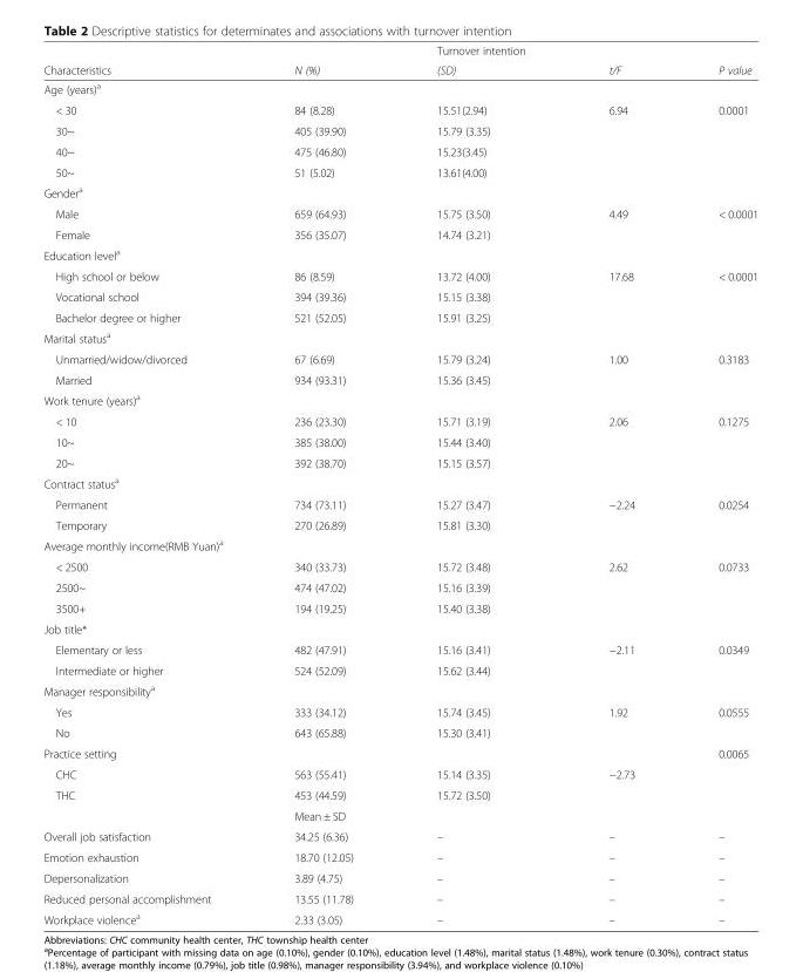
<table><thead><tr><td rowspan="2">Characteristics</td><td rowspan="2">N (%)</td><td rowspan="2">Turnover intention (SD)</td><td rowspan="2">t/F</td><td rowspan="2">P value</td></tr><tr></tr></thead><tbody><tr><td colspan="5">Age (years)<sup>a</sup></td></tr><tr><td>&lt; 30</td><td>84 (8.28)</td><td>15.51(2.94)</td><td rowspan="4">6.94</td><td rowspan="4">0.0001</td></tr><tr><td>30~</td><td>405 (39.90)</td><td>15.79 (3.35)</td></tr><tr><td>40~</td><td>475 (46.80)</td><td>15.23(3.45)</td></tr><tr><td>50~</td><td>51 (5.02)</td><td>13.61(4.00)</td></tr><tr><td colspan="5">Gender<sup>a</sup></td></tr><tr><td>Male</td><td>659 (64.93)</td><td>15.75 (3.50)</td><td rowspan="2">4.49</td><td rowspan="2">&lt; 0.0001</td></tr><tr><td>Female</td><td>356 (35.07)</td><td>14.74 (3.21)</td></tr><tr><td colspan="5">Education level<sup>a</sup></td></tr><tr><td>High school or below</td><td>86 (8.59)</td><td>13.72 (4.00)</td><td rowspan="3">17.68</td><td rowspan="3">&lt; 0.0001</td></tr><tr><td>Vocational school</td><td>394 (39.36)</td><td>15.15 (3.38)</td></tr><tr><td>Bachelor degree or higher</td><td>521 (52.05)</td><td>15.91 (3.25)</td></tr><tr><td colspan="5">Marital status<sup>a</sup></td></tr><tr><td>Unmarried/widow/divorced</td><td>67 (6.69)</td><td>15.79 (3.24)</td><td rowspan="2">1.00</td><td rowspan="2">0.3183</td></tr><tr><td>Married</td><td>934 (93.31)</td><td>15.36 (3.45)</td></tr><tr><td colspan="5">Work tenure (years)<sup>a</sup></td></tr><tr><td>&lt; 10</td><td>236 (23.30)</td><td>15.71 (3.19)</td><td rowspan="3">2.06</td><td rowspan="3">0.1275</td></tr><tr><td>10~</td><td>385 (38.00)</td><td>15.44 (3.40)</td></tr><tr><td>20~</td><td>392 (38.70)</td><td>15.15 (3.57)</td></tr><tr><td colspan="5">Contract status<sup>a</sup></td></tr><tr><td>Permanent</td><td>734 (73.11)</td><td>15.27 (3.47)</td><td rowspan="2">−2.24</td><td rowspan="2">0.0254</td></tr><tr><td>Temporary</td><td>270 (26.89)</td><td>15.81 (3.30)</td></tr><tr><td colspan="5">Average monthly income(RMB Yuan)<sup>a</sup></td></tr><tr><td>&lt; 2500</td><td>340 (33.73)</td><td>15.72 (3.48)</td><td rowspan="3">2.62</td><td rowspan="3">0.0733</td></tr><tr><td>2500~</td><td>474 (47.02)</td><td>15.16 (3.39)</td></tr><tr><td>3500+</td><td>194 (19.25)</td><td>15.40 (3.38)</td></tr><tr><td colspan="5">Job title*</td></tr><tr><td>Elementary or less</td><td>482 (47.91)</td><td>15.16 (3.41)</td><td rowspan="2">−2.11</td><td rowspan="2">0.0349</td></tr><tr><td>Intermediate or higher</td><td>524 (52.09)</td><td>15.62 (3.44)</td></tr><tr><td colspan="5">Manager responsibility<sup>a</sup></td></tr><tr><td>Yes</td><td>333 (34.12)</td><td>15.74 (3.45)</td><td rowspan="2">1.92</td><td rowspan="2">0.0555</td></tr><tr><td>No</td><td>643 (65.88)</td><td>15.30 (3.41)</td></tr><tr><td colspan="4">Practice setting</td><td rowspan="3">0.0065</td></tr><tr><td>CHC</td><td>563 (55.41)</td><td>15.14 (3.35)</td><td rowspan="2">−2.73</td></tr><tr><td rowspan="2">THC</td><td>453 (44.59)</td><td>15.72 (3.50)</td></tr><tr><td>Mean ± SD</td><td></td><td></td><td></td></tr><tr><td>Overall job satisfaction</td><td>34.25 (6.36)</td><td>–</td><td>–</td><td>–</td></tr><tr><td>Emotion exhaustion</td><td>18.70 (12.05)</td><td>–</td><td>–</td><td>–</td></tr><tr><td>Depersonalization</td><td>3.89 (4.75)</td><td>–</td><td>–</td><td>–</td></tr><tr><td>Reduced personal accomplishment</td><td>13.55 (11.78)</td><td>–</td><td>–</td><td>–</td></tr><tr><td>Workplace violence<sup>a</sup></td><td>2.33 (3.05)</td><td>–</td><td>–</td><td>–</td></tr></tbody></table>